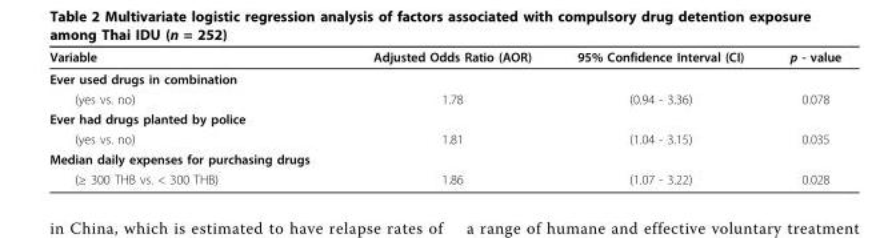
<table><thead><tr><td>Variable</td><td>Adjusted Odds Ratio (AOR)</td><td>95% Confidence Interval (CI)</td><td>p - value</td></tr></thead><tbody><tr><td colspan="4">Ever used drugs in combination</td></tr><tr><td>(yes vs. no)</td><td>1.78</td><td>(0.94 - 3.36)</td><td>0.078</td></tr><tr><td colspan="4">Ever had drugs planted by police</td></tr><tr><td>(yes vs. no)</td><td>1.81</td><td>(1.04 - 3.15)</td><td>0.035</td></tr><tr><td colspan="4">Median daily expenses for purchasing drugs</td></tr><tr><td>(≥ 300 THB vs. &lt; 300 THB)</td><td>1.86</td><td>(1.07 - 3.22)</td><td>0.028</td></tr></tbody></table>